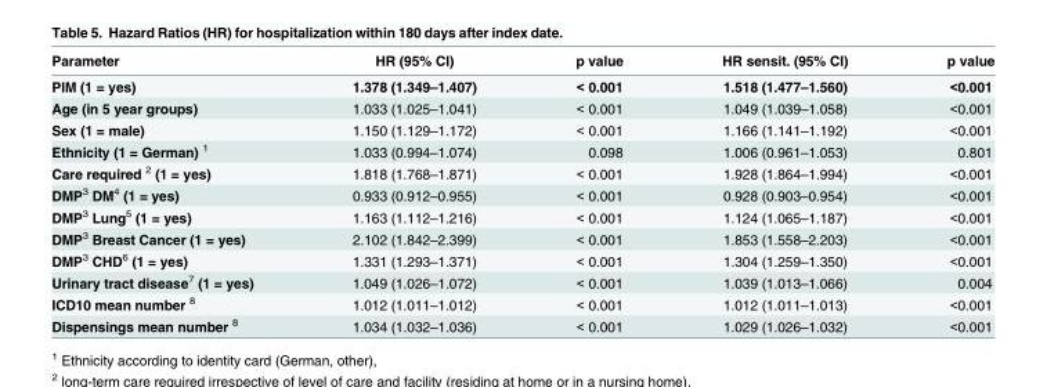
<table><thead><tr><td>Parameter</td><td>HR (95% CI)</td><td>p value</td><td>HR sensit. (95% CI)</td><td>p value</td></tr></thead><tbody><tr><td>PIM (1 = yes)</td><td>1.378 (1.349–1.407)</td><td>&lt; 0.001</td><td>1.518 (1.477–1.560)</td><td>&lt;0.001</td></tr><tr><td>Age (in 5 year groups)</td><td>1.033 (1.025–1.041)</td><td>&lt; 0.001</td><td>1.049 (1.039–1.058)</td><td>&lt;0.001</td></tr><tr><td>Sex (1 = male)</td><td>1.150 (1.129–1.172)</td><td>&lt; 0.001</td><td>1.166 (1.141–1.192)</td><td>&lt;0.001</td></tr><tr><td>Ethnicity (1 = German) <sup>1</sup></td><td>1.033 (0.994–1.074)</td><td>0.098</td><td>1.006 (0.961–1.053)</td><td>0.801</td></tr><tr><td>Care required <sup>2</sup> (1 = yes)</td><td>1.818 (1.768–1.871)</td><td>&lt; 0.001</td><td>1.928 (1.864–1.994)</td><td>&lt;0.001</td></tr><tr><td>DMP<sup>3</sup> DM<sup>4</sup> (1 = yes)</td><td>0.933 (0.912–0.955)</td><td>&lt; 0.001</td><td>0.928 (0.903–0.954)</td><td>&lt;0.001</td></tr><tr><td>DMP<sup>3</sup> Lung<sup>5</sup> (1 = yes)</td><td>1.163 (1.112–1.216)</td><td>&lt; 0.001</td><td>1.124 (1.065–1.187)</td><td>&lt;0.001</td></tr><tr><td>DMP<sup>3</sup> Breast Cancer (1 = yes)</td><td>2.102 (1.842–2.399)</td><td>&lt; 0.001</td><td>1.853 (1.558–2.203)</td><td>&lt;0.001</td></tr><tr><td>DMP<sup>3</sup> CHD<sup>6</sup> (1 = yes)</td><td>1.331 (1.293–1.371)</td><td>&lt; 0.001</td><td>1.304 (1.259–1.350)</td><td>&lt;0.001</td></tr><tr><td>Urinary tract disease<sup>7</sup> (1 = yes)</td><td>1.049 (1.026–1.072)</td><td>&lt; 0.001</td><td>1.039 (1.013–1.066)</td><td>0.004</td></tr><tr><td>ICD10 mean number <sup>8</sup></td><td>1.012 (1.011–1.012)</td><td>&lt; 0.001</td><td>1.012 (1.011–1.013)</td><td>&lt;0.001</td></tr><tr><td>Dispensings mean number <sup>8</sup></td><td>1.034 (1.032–1.036)</td><td>&lt; 0.001</td><td>1.029 (1.026–1.032)</td><td>&lt;0.001</td></tr></tbody></table>